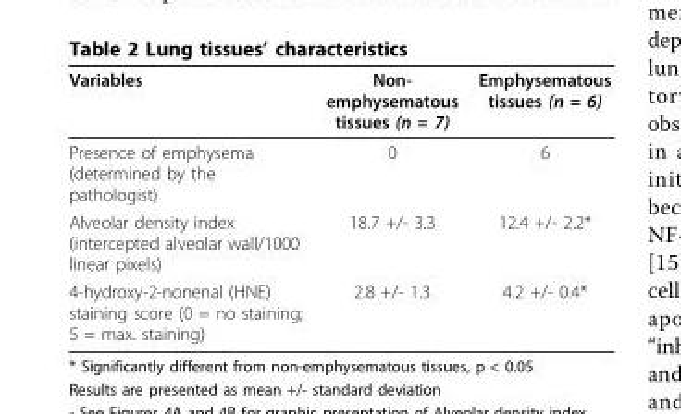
<table><thead><tr><td>Variables</td><td>Non- emphysematous tissues (n = 7)</td><td>Emphysematous tissues (n = 6)</td></tr></thead><tbody><tr><td>Presence of emphysema (determined by the pathologist)</td><td>0</td><td>6</td></tr><tr><td>Alveolar density index (intercepted alveolar wall/1000 linear pixels)</td><td>18.7 +/- 3.3</td><td>12.4 +/- 2.2*</td></tr><tr><td>4-hydroxy-2-nonenal (HNE) staining score (0 = no staining; 5 = max. staining)</td><td>2.8 +/- 1.3</td><td>4.2 +/- 0.4*</td></tr></tbody></table>